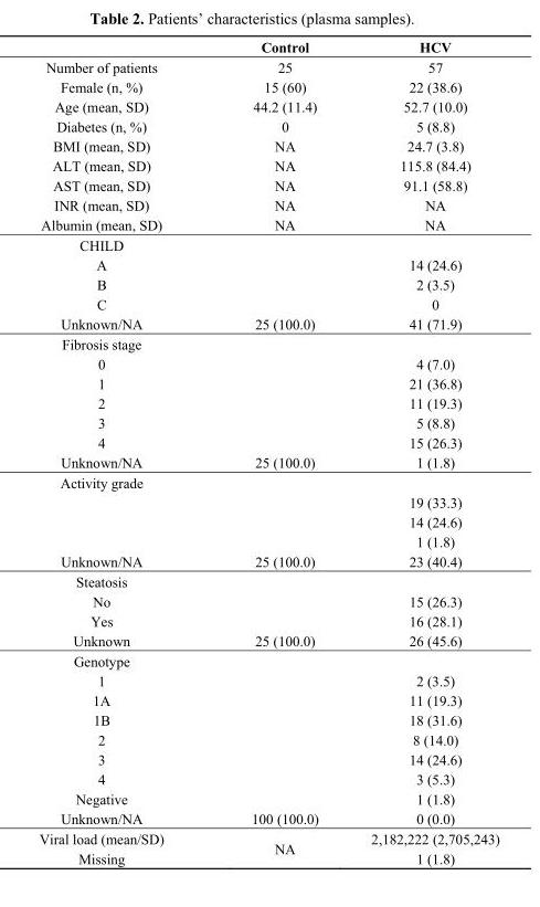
<table><thead><tr><td></td><td>Control</td><td>HCV</td></tr></thead><tbody><tr><td>Number of patients</td><td>25</td><td>57</td></tr><tr><td>Female (n, %)</td><td>15 (60)</td><td>22 (38.6)</td></tr><tr><td>Age (mean, SD)</td><td>44.2 (11.4)</td><td>52.7 (10.0)</td></tr><tr><td>Diabetes (n, %)</td><td>0</td><td>5 (8.8)</td></tr><tr><td>BMI (mean, SD)</td><td>NA</td><td>24.7 (3.8)</td></tr><tr><td>ALT (mean, SD)</td><td>NA</td><td>115.8 (84.4)</td></tr><tr><td>AST (mean, SD)</td><td>NA</td><td>91.1 (58.8)</td></tr><tr><td>INR (mean, SD)</td><td>NA</td><td>NA</td></tr><tr><td>Albumin (mean, SD)</td><td>NA</td><td>NA</td></tr><tr><td colspan="3">CHILD</td></tr><tr><td>A</td><td></td><td>14 (24.6)</td></tr><tr><td>B</td><td></td><td>2 (3.5)</td></tr><tr><td>C</td><td></td><td>0</td></tr><tr><td>Unknown/NA</td><td>25 (100.0)</td><td>41 (71.9)</td></tr><tr><td colspan="3">Fibrosis stage</td></tr><tr><td>0</td><td></td><td>4 (7.0)</td></tr><tr><td>1</td><td></td><td>21 (36.8)</td></tr><tr><td>2</td><td></td><td>11 (19.3)</td></tr><tr><td>3</td><td></td><td>5 (8.8)</td></tr><tr><td>4</td><td></td><td>15 (26.3)</td></tr><tr><td>Unknown/NA</td><td>25 (100.0)</td><td>1 (1.8)</td></tr><tr><td colspan="3">Activity grade</td></tr><tr><td></td><td></td><td>19 (33.3)</td></tr><tr><td></td><td></td><td>14 (24.6)</td></tr><tr><td></td><td></td><td>1 (1.8)</td></tr><tr><td>Unknown/NA</td><td>25 (100.0)</td><td>23 (40.4)</td></tr><tr><td colspan="3">Steatosis</td></tr><tr><td>No</td><td></td><td>15 (26.3)</td></tr><tr><td>Yes</td><td></td><td>16 (28.1)</td></tr><tr><td>Unknown</td><td>25 (100.0)</td><td>26 (45.6)</td></tr><tr><td colspan="3">Genotype</td></tr><tr><td>1</td><td></td><td>2 (3.5)</td></tr><tr><td>1A</td><td></td><td>11 (19.3)</td></tr><tr><td>1B</td><td></td><td>18 (31.6)</td></tr><tr><td>2</td><td></td><td>8 (14.0)</td></tr><tr><td>3</td><td></td><td>14 (24.6)</td></tr><tr><td>4</td><td></td><td>3 (5.3)</td></tr><tr><td>Negative</td><td></td><td>1 (1.8)</td></tr><tr><td>Unknown/NA</td><td>100 (100.0)</td><td>0 (0.0)</td></tr><tr><td>Viral load (mean/SD) Missing</td><td>NA</td><td>2,182,222 (2,705,243) 1 (1.8)</td></tr></tbody></table>